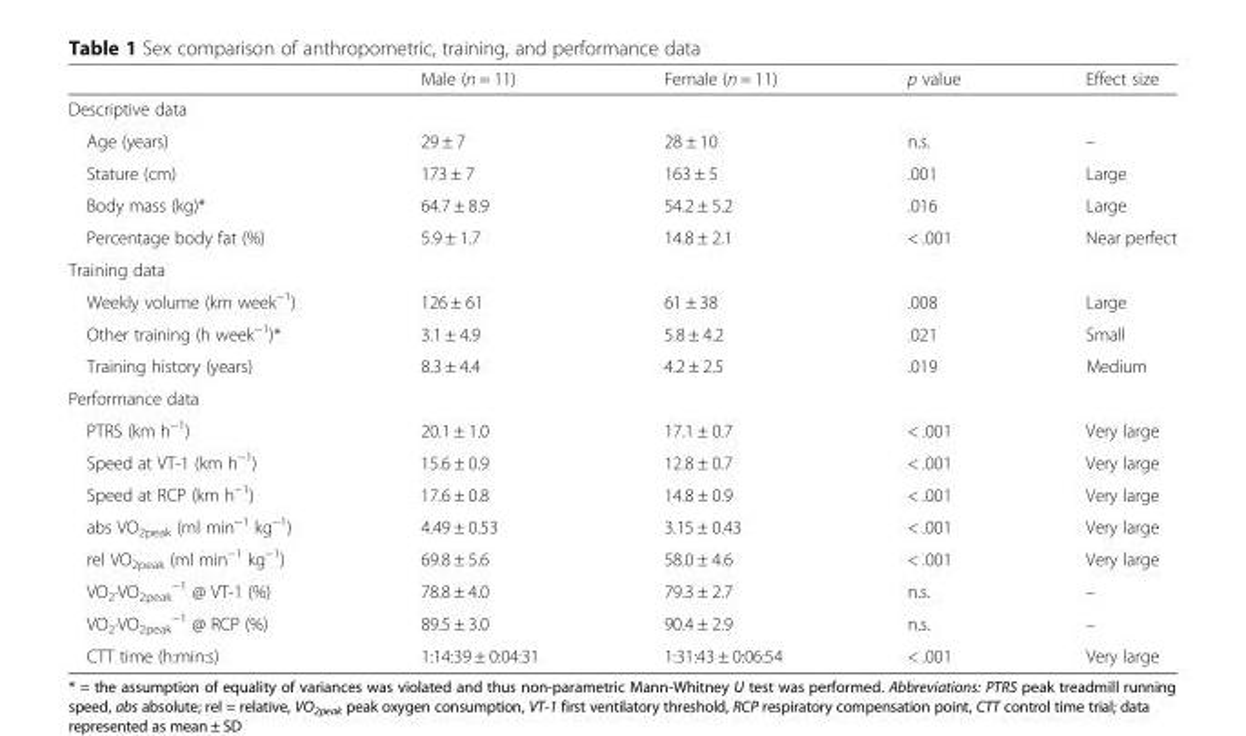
<table><thead><tr><td></td><td>Male (n = 11)</td><td>Female (n = 11)</td><td>p value</td><td>Effect size</td></tr></thead><tbody><tr><td colspan="5">Descriptive data</td></tr><tr><td>Age (years)</td><td>29 ± 7</td><td>28 ± 10</td><td>n.s.</td><td>–</td></tr><tr><td>Stature (cm)</td><td>173 ± 7</td><td>163 ± 5</td><td>.001</td><td>Large</td></tr><tr><td>Body mass (kg)*</td><td>64.7 ± 8.9</td><td>54.2 ± 5.2</td><td>.016</td><td>Large</td></tr><tr><td>Percentage body fat (%)</td><td>5.9 ± 1.7</td><td>14.8 ± 2.1</td><td>&lt; .001</td><td>Near perfect</td></tr><tr><td colspan="5">Training data</td></tr><tr><td>Weekly volume (km week<sup>−1</sup>)</td><td>126 ± 61</td><td>61 ± 38</td><td>.008</td><td>Large</td></tr><tr><td>Other training (h week<sup>−1</sup>)*</td><td>3.1 ± 4.9</td><td>5.8 ± 4.2</td><td>.021</td><td>Small</td></tr><tr><td>Training history (years)</td><td>8.3 ± 4.4</td><td>4.2 ± 2.5</td><td>.019</td><td>Medium</td></tr><tr><td colspan="5">Performance data</td></tr><tr><td>PTRS (km h<sup>−1</sup>)</td><td>20.1 ± 1.0</td><td>17.1 ± 0.7</td><td>&lt; .001</td><td>Very large</td></tr><tr><td>Speed at VT-1 (km h<sup>−1</sup>)</td><td>15.6 ± 0.9</td><td>12.8 ± 0.7</td><td>&lt; .001</td><td>Very large</td></tr><tr><td>Speed at RCP (km h<sup>−1</sup>)</td><td>17.6 ± 0.8</td><td>14.8 ± 0.9</td><td>&lt; .001</td><td>Very large</td></tr><tr><td>abs VO<sub>2peak</sub> (ml min<sup>−1</sup> kg<sup>−1</sup>)</td><td>4.49 ± 0.53</td><td>3.15 ± 0.43</td><td>&lt; .001</td><td>Very large</td></tr><tr><td>rel VO<sub>2peak</sub> (ml min<sup>−1</sup> kg<sup>−1</sup>)</td><td>69.8 ± 5.6</td><td>58.0 ± 4.6</td><td>&lt; .001</td><td>Very large</td></tr><tr><td>VO<sub>2</sub>·VO<sub>2peak</sub> <sup>−1</sup> @ VT-1 (%)</td><td>78.8 ± 4.0</td><td>79.3 ± 2.7</td><td>n.s.</td><td>–</td></tr><tr><td>VO<sub>2</sub>·VO<sub>2peak</sub> <sup>−1</sup> @ RCP (%)</td><td>89.5 ± 3.0</td><td>90.4 ± 2.9</td><td>n.s.</td><td>–</td></tr><tr><td>CTT time (h:min:s)</td><td>1:14:39 ± 0:04:31</td><td>1:31:43 ± 0:06:54</td><td>&lt; .001</td><td>Very large</td></tr></tbody></table>